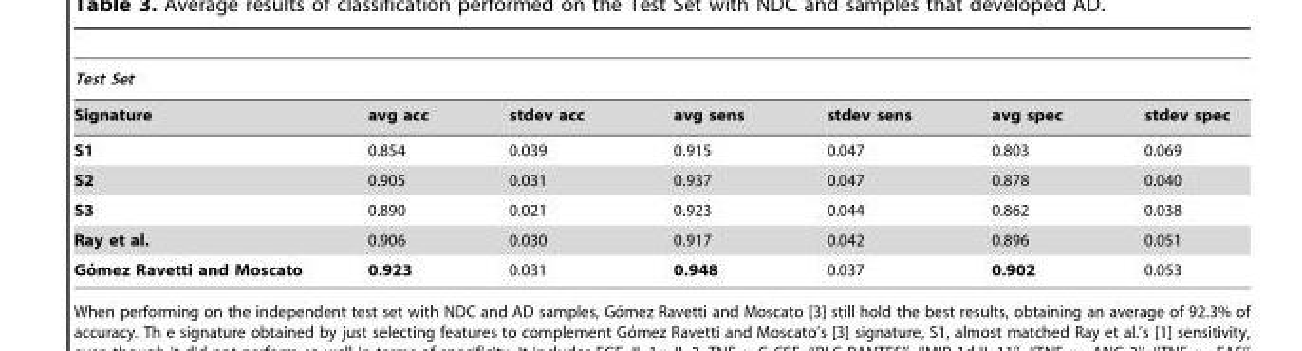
<table><thead><tr><td colspan="7">Test Set</td></tr><tr><td>Signature</td><td>avg acc</td><td>stdev acc</td><td>avg sens</td><td>stdev sens</td><td>avg spec</td><td>stdev spec</td></tr></thead><tbody><tr><td>S1</td><td>0.854</td><td>0.039</td><td>0.915</td><td>0.047</td><td>0.803</td><td>0.069</td></tr><tr><td>S2</td><td>0.905</td><td>0.031</td><td>0.937</td><td>0.047</td><td>0.878</td><td>0.040</td></tr><tr><td>S3</td><td>0.890</td><td>0.021</td><td>0.923</td><td>0.044</td><td>0.862</td><td>0.038</td></tr><tr><td>Ray et al.</td><td>0.906</td><td>0.030</td><td>0.917</td><td>0.042</td><td>0.896</td><td>0.051</td></tr><tr><td>Go´ mez Ravetti and Moscato</td><td>0.923</td><td>0.031</td><td>0.948</td><td>0.037</td><td>0.902</td><td>0.053</td></tr></tbody></table>